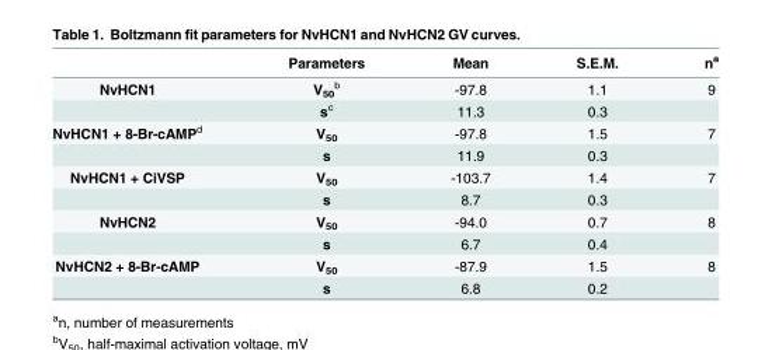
<table><thead><tr><td></td><td>Parameters</td><td>Mean</td><td>S.E.M.</td><td>n<sup>a</sup></td></tr></thead><tbody><tr><td rowspan="2">NvHCN1</td><td>V<sub>50</sub> <sup>b</sup></td><td>-97.8</td><td>1.1</td><td>9</td></tr><tr><td>s<sup>c</sup></td><td>11.3</td><td>0.3</td><td></td></tr><tr><td rowspan="2">NvHCN1 + 8-Br-cAMP<sup>d</sup></td><td>V<sub>50</sub></td><td>-97.8</td><td>1.5</td><td>7</td></tr><tr><td>s</td><td>11.9</td><td>0.3</td><td></td></tr><tr><td rowspan="2">NvHCN1 + CiVSP</td><td>V<sub>50</sub></td><td>-103.7</td><td>1.4</td><td>7</td></tr><tr><td>s</td><td>8.7</td><td>0.3</td><td></td></tr><tr><td rowspan="2">NvHCN2</td><td>V<sub>50</sub></td><td>-94.0</td><td>0.7</td><td>8</td></tr><tr><td>s</td><td>6.7</td><td>0.4</td><td></td></tr><tr><td rowspan="2">NvHCN2 + 8-Br-cAMP</td><td>V<sub>50</sub></td><td>-87.9</td><td>1.5</td><td>8</td></tr><tr><td>s</td><td>6.8</td><td>0.2</td><td></td></tr></tbody></table>